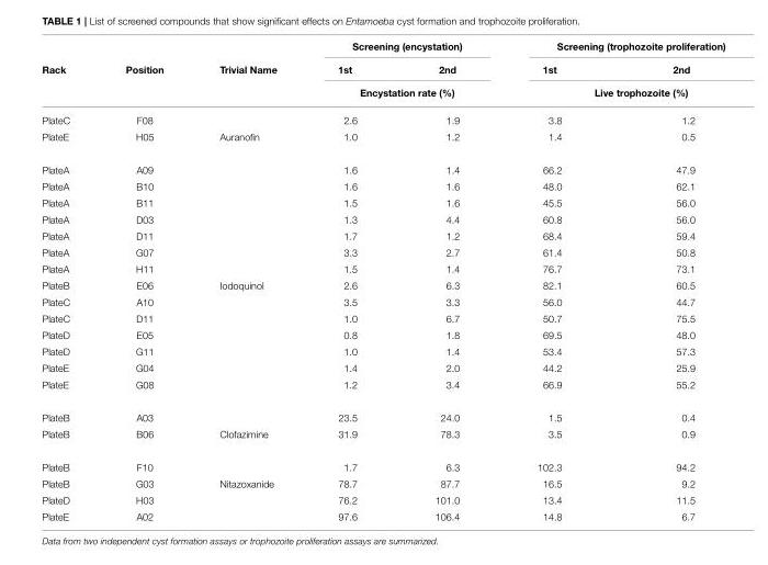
<table><thead><tr><td rowspan="3">Rack</td><td rowspan="3">Position</td><td rowspan="3">Trivial Name</td><td colspan="2">Screening (encystation)</td><td colspan="2">Screening (trophozoite proliferation)</td></tr><tr><td>1st</td><td>2nd</td><td>1st</td><td>2nd</td></tr><tr><td colspan="2">Encystation rate (%)</td><td colspan="2">Live trophozoite (%)</td></tr></thead><tbody><tr><td>PlateC</td><td>F08</td><td></td><td>2.6</td><td>1.9</td><td>3.8</td><td>1.2</td></tr><tr><td>PlateE</td><td>H05</td><td>Auranofin</td><td>1.0</td><td>1.2</td><td>1.4</td><td>0.5</td></tr><tr><td>PlateA</td><td>A09</td><td></td><td>1.6</td><td>1.4</td><td>66.2</td><td>47.9</td></tr><tr><td>PlateA</td><td>B10</td><td></td><td>1.6</td><td>1.6</td><td>48.0</td><td>62.1</td></tr><tr><td>PlateA</td><td>B11</td><td></td><td>1.5</td><td>1.6</td><td>45.5</td><td>56.0</td></tr><tr><td>PlateA</td><td>D03</td><td></td><td>1.3</td><td>4.4</td><td>60.8</td><td>56.0</td></tr><tr><td>PlateA</td><td>D11</td><td></td><td>1.7</td><td>1.2</td><td>68.4</td><td>59.4</td></tr><tr><td>PlateA</td><td>G07</td><td></td><td>3.3</td><td>2.7</td><td>61.4</td><td>50.8</td></tr><tr><td>PlateA</td><td>H11</td><td></td><td>1.5</td><td>1.4</td><td>76.7</td><td>73.1</td></tr><tr><td>PlateB</td><td>E06</td><td>Iodoquinol</td><td>2.6</td><td>6.3</td><td>82.1</td><td>60.5</td></tr><tr><td>PlateC</td><td>A10</td><td></td><td>3.5</td><td>3.3</td><td>56.0</td><td>44.7</td></tr><tr><td>PlateC</td><td>D11</td><td></td><td>1.0</td><td>6.7</td><td>50.7</td><td>75.5</td></tr><tr><td>PlateD</td><td>E05</td><td></td><td>0.8</td><td>1.8</td><td>69.5</td><td>48.0</td></tr><tr><td>PlateD</td><td>G11</td><td></td><td>1.0</td><td>1.4</td><td>53.4</td><td>57.3</td></tr><tr><td>PlateE</td><td>G04</td><td></td><td>1.4</td><td>2.0</td><td>44.2</td><td>25.9</td></tr><tr><td>PlateE</td><td>G08</td><td></td><td>1.2</td><td>3.4</td><td>66.9</td><td>55.2</td></tr><tr><td>PlateB</td><td>A03</td><td></td><td>23.5</td><td>24.0</td><td>1.5</td><td>0.4</td></tr><tr><td>PlateB</td><td>B06</td><td>Clofazimine</td><td>31.9</td><td>78.3</td><td>3.5</td><td>0.9</td></tr><tr><td>PlateB</td><td>F10</td><td></td><td>1.7</td><td>6.3</td><td>102.3</td><td>94.2</td></tr><tr><td>PlateB</td><td>G03</td><td>Nitazoxanide</td><td>78.7</td><td>87.7</td><td>16.5</td><td>9.2</td></tr><tr><td>PlateD</td><td>H03</td><td></td><td>76.2</td><td>101.0</td><td>13.4</td><td>11.5</td></tr><tr><td>PlateE</td><td>A02</td><td></td><td>97.6</td><td>106.4</td><td>14.8</td><td>6.7</td></tr></tbody></table>